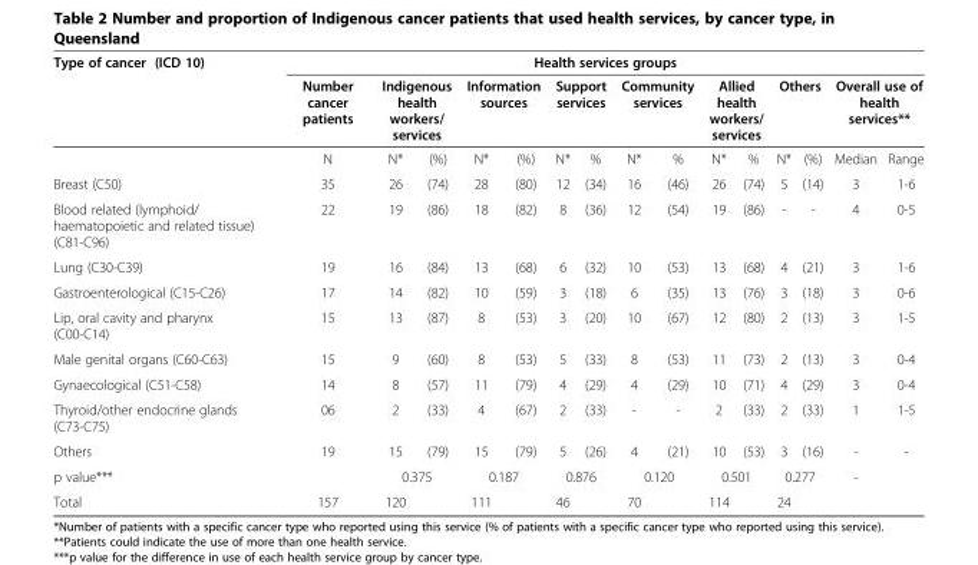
<table><thead><tr><td rowspan="3">Type of cancer (ICD 10)</td><td colspan="15">Health services groups</td></tr><tr><td rowspan="2">Number cancer patients N</td><td colspan="2">Indigenous health workers/ services</td><td colspan="2">Information sources</td><td colspan="2">Support services</td><td colspan="2">Community services</td><td colspan="2">Allied health workers/ services</td><td colspan="2">Others</td><td colspan="2">Overall use of health services**</td></tr><tr><td>N*</td><td>(%)</td><td>N*</td><td>(%)</td><td>N*</td><td>%</td><td>N*</td><td>%</td><td>N*</td><td>%</td><td>N*</td><td>(%)</td><td>Median</td><td>Range</td></tr></thead><tbody><tr><td>Breast (C50)</td><td>35</td><td>26</td><td>(74)</td><td>28</td><td>(80)</td><td>12</td><td>(34)</td><td>16</td><td>(46)</td><td>26</td><td>(74)</td><td>5</td><td>(14)</td><td>3</td><td>1-6</td></tr><tr><td>Blood related (lymphoid/ haematopoietic and related tissue) (C81-C96)</td><td>22</td><td>19</td><td>(86)</td><td>18</td><td>(82)</td><td>8</td><td>(36)</td><td>12</td><td>(54)</td><td>19</td><td>(86)</td><td>-</td><td>-</td><td>4</td><td>0-5</td></tr><tr><td>Lung (C30-C39)</td><td>19</td><td>16</td><td>(84)</td><td>13</td><td>(68)</td><td>6</td><td>(32)</td><td>10</td><td>(53)</td><td>13</td><td>(68)</td><td>4</td><td>(21)</td><td>3</td><td>1-6</td></tr><tr><td>Gastroenterological (C15-C26)</td><td>17</td><td>14</td><td>(82)</td><td>10</td><td>(59)</td><td>3</td><td>(18)</td><td>6</td><td>(35)</td><td>13</td><td>(76)</td><td>3</td><td>(18)</td><td>3</td><td>0-6</td></tr><tr><td>Lip, oral cavity and pharynx (C00-C14)</td><td>15</td><td>13</td><td>(87)</td><td>8</td><td>(53)</td><td>3</td><td>(20)</td><td>10</td><td>(67)</td><td>12</td><td>(80)</td><td>2</td><td>(13)</td><td>3</td><td>1-5</td></tr><tr><td>Male genital organs (C60-C63)</td><td>15</td><td>9</td><td>(60)</td><td>8</td><td>(53)</td><td>5</td><td>(33)</td><td>8</td><td>(53)</td><td>11</td><td>(73)</td><td>2</td><td>(13)</td><td>3</td><td>0-4</td></tr><tr><td>Gynaecological (C51-C58)</td><td>14</td><td>8</td><td>(57)</td><td>11</td><td>(79)</td><td>4</td><td>(29)</td><td>4</td><td>(29)</td><td>10</td><td>(71)</td><td>4</td><td>(29)</td><td>3</td><td>0-4</td></tr><tr><td>Thyroid/other endocrine glands (C73-C75)</td><td>06</td><td>2</td><td>(33)</td><td>4</td><td>(67)</td><td>2</td><td>(33)</td><td>-</td><td>-</td><td>2</td><td>(33)</td><td>2</td><td>(33)</td><td>1</td><td>1-5</td></tr><tr><td>Others</td><td>19</td><td>15</td><td>(79)</td><td>15</td><td>(79)</td><td>5</td><td>(26)</td><td>4</td><td>(21)</td><td>10</td><td>(53)</td><td>3</td><td>(16)</td><td>-</td><td>-</td></tr><tr><td>p value***</td><td></td><td colspan="2">0.375</td><td colspan="2">0.187</td><td colspan="2">0.876</td><td colspan="2">0.120</td><td colspan="2">0.501</td><td colspan="2">0.277</td><td>-</td><td></td></tr><tr><td>Total</td><td>157</td><td>120</td><td></td><td>111</td><td></td><td>46</td><td></td><td>70</td><td></td><td>114</td><td></td><td>24</td><td></td><td></td><td></td></tr></tbody></table>